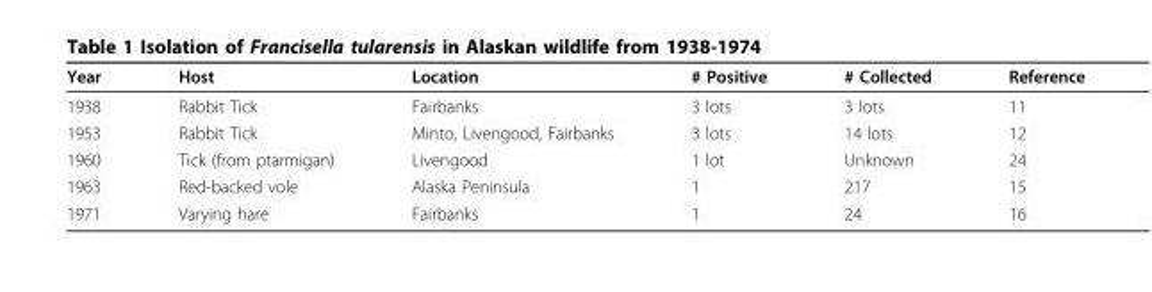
<table><thead><tr><td>Year</td><td>Host</td><td>Location</td><td># Positive</td><td># Collected</td><td>Reference</td></tr></thead><tbody><tr><td>1938</td><td>Rabbit Tick</td><td>Fairbanks</td><td>3 lots</td><td>3 lots</td><td>11</td></tr><tr><td>1953</td><td>Rabbit Tick</td><td>Minto, Livengood, Fairbanks</td><td>3 lots</td><td>14 lots</td><td>12</td></tr><tr><td>1960</td><td>Tick (from ptarmigan)</td><td>Livengood</td><td>1 lot</td><td>Unknown</td><td>24</td></tr><tr><td>1963</td><td>Red-backed vole</td><td>Alaska Peninsula</td><td>1</td><td>217</td><td>15</td></tr><tr><td>1971</td><td>Varying hare</td><td>Fairbanks</td><td>1</td><td>24</td><td>16</td></tr></tbody></table>